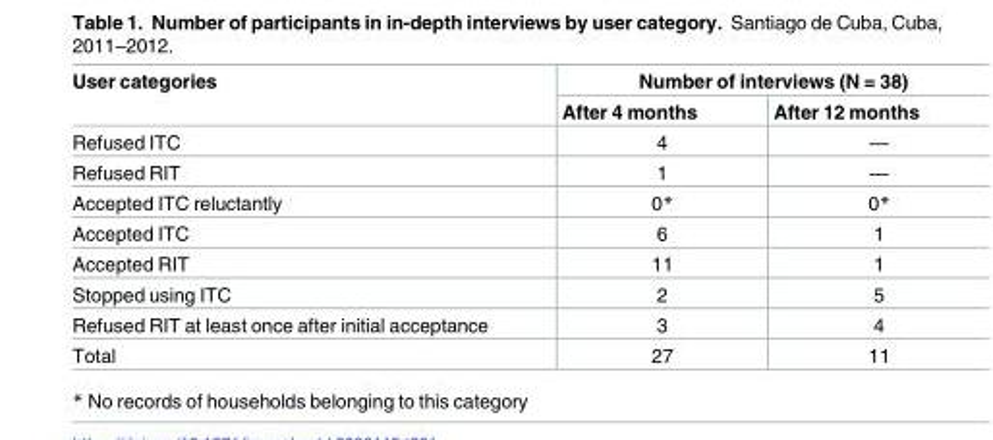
<table><thead><tr><td rowspan="2">User categories</td><td colspan="2">Number of interviews (N = 38)</td></tr><tr><td>After 4 months</td><td>After 12 months</td></tr></thead><tbody><tr><td>Refused ITC</td><td>4</td><td>—</td></tr><tr><td>Refused RIT</td><td>1</td><td>—</td></tr><tr><td>Accepted ITC reluctantly</td><td>0*</td><td>0*</td></tr><tr><td>Accepted ITC</td><td>6</td><td>1</td></tr><tr><td>Accepted RIT</td><td>11</td><td>1</td></tr><tr><td>Stopped using ITC</td><td>2</td><td>5</td></tr><tr><td>Refused RIT at least once after initial acceptance</td><td>3</td><td>4</td></tr><tr><td>Total</td><td>27</td><td>11</td></tr></tbody></table>